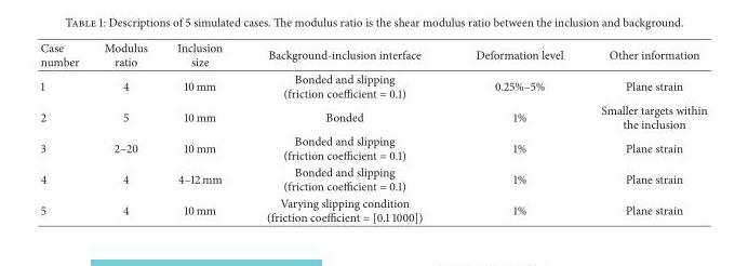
<table><thead><tr><td>Case number</td><td>Modulus ratio</td><td>Inclusion size</td><td>Background-inclusion interface</td><td>Deformation level</td><td>Other information</td></tr></thead><tbody><tr><td>1</td><td>4</td><td>10 mm</td><td>Bonded and slipping (friction coefficient = 0.1)</td><td>0.25%–5%</td><td>Plane strain</td></tr><tr><td>2</td><td>5</td><td>10 mm</td><td>Bonded</td><td>1%</td><td>Smaller targets within the inclusion</td></tr><tr><td>3</td><td>2–20</td><td>10 mm</td><td>Bonded and slipping (friction coefficient = 0.1)</td><td>1%</td><td>Plane strain</td></tr><tr><td>4</td><td>4</td><td>4–12 mm</td><td>Bonded and slipping (friction coefficient = 0.1)</td><td>1%</td><td>Plane strain</td></tr><tr><td>5</td><td>4</td><td>10 mm</td><td>Varying slipping condition (friction coefficient = [0.1 1000])</td><td>1%</td><td>Plane strain</td></tr></tbody></table>